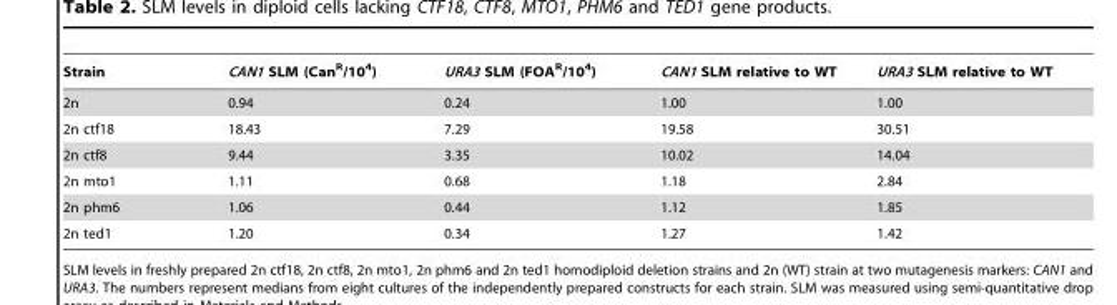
<table><thead><tr><td>Strain</td><td>CAN1 SLM (Can<sup>R</sup>/10<sup>4</sup>)</td><td>URA3 SLM (FOA<sup>R</sup>/10<sup>4</sup>)</td><td>CAN1 SLM relative to WT</td><td>URA3 SLM relative to WT</td></tr></thead><tbody><tr><td>2n</td><td>0.94</td><td>0.24</td><td>1.00</td><td>1.00</td></tr><tr><td>2n ctf18</td><td>18.43</td><td>7.29</td><td>19.58</td><td>30.51</td></tr><tr><td>2n ctf8</td><td>9.44</td><td>3.35</td><td>10.02</td><td>14.04</td></tr><tr><td>2n mto1</td><td>1.11</td><td>0.68</td><td>1.18</td><td>2.84</td></tr><tr><td>2n phm6</td><td>1.06</td><td>0.44</td><td>1.12</td><td>1.85</td></tr><tr><td>2n ted1</td><td>1.20</td><td>0.34</td><td>1.27</td><td>1.42</td></tr></tbody></table>